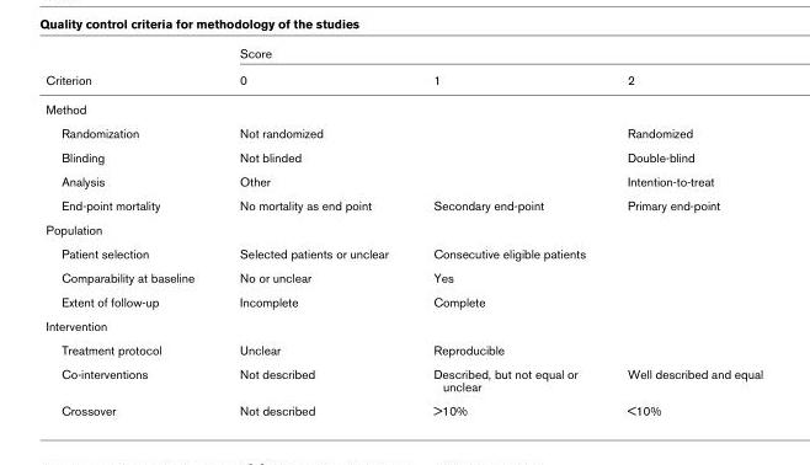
<table><thead><tr><td rowspan="2">Criterion</td><td colspan="3">Score</td></tr><tr><td>0</td><td>1</td><td>2</td></tr></thead><tbody><tr><td colspan="4">Method</td></tr><tr><td>Randomization</td><td>Not randomized</td><td></td><td>Randomized</td></tr><tr><td>Blinding</td><td>Not blinded</td><td></td><td>Double-blind</td></tr><tr><td>Analysis</td><td>Other</td><td></td><td>Intention-to-treat</td></tr><tr><td>End-point mortality</td><td>No mortality as end point</td><td>Secondary end-point</td><td>Primary end-point</td></tr><tr><td colspan="4">Population</td></tr><tr><td>Patient selection</td><td>Selected patients or unclear</td><td>Consecutive eligible patients</td><td></td></tr><tr><td>Comparability at baseline</td><td>No or unclear</td><td>Yes</td><td></td></tr><tr><td>Extent of follow-up</td><td>Incomplete</td><td>Complete</td><td></td></tr><tr><td colspan="4">Intervention</td></tr><tr><td>Treatment protocol</td><td>Unclear</td><td>Reproducible</td><td></td></tr><tr><td>Co-interventions</td><td>Not described</td><td>Described, but not equal or unclear</td><td>Well described and equal</td></tr><tr><td>Crossover</td><td>Not described</td><td>&gt;10%</td><td>&lt;10%</td></tr></tbody></table>